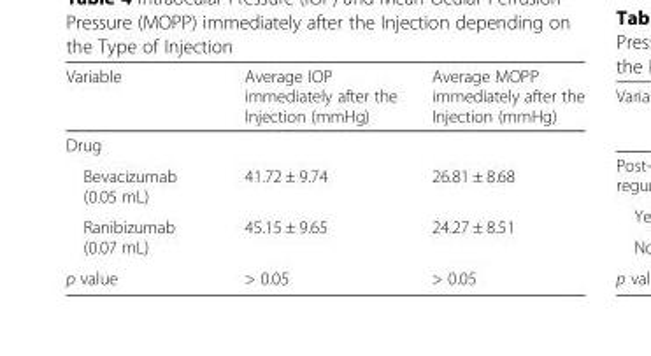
<table><thead><tr><td>Variable</td><td>Average IOP immediately after the Injection (mmHg)</td><td>Average MOPP immediately after the Injection (mmHg)</td></tr></thead><tbody><tr><td colspan="3">Drug</td></tr><tr><td>Bevacizumab (0.05 mL)</td><td>41.72 ± 9.74</td><td>26.81 ± 8.68</td></tr><tr><td>Ranibizumab (0.07 mL)</td><td>45.15 ± 9.65</td><td>24.27 ± 8.51</td></tr><tr><td>p value</td><td>&gt; 0.05</td><td>&gt; 0.05</td></tr></tbody></table>